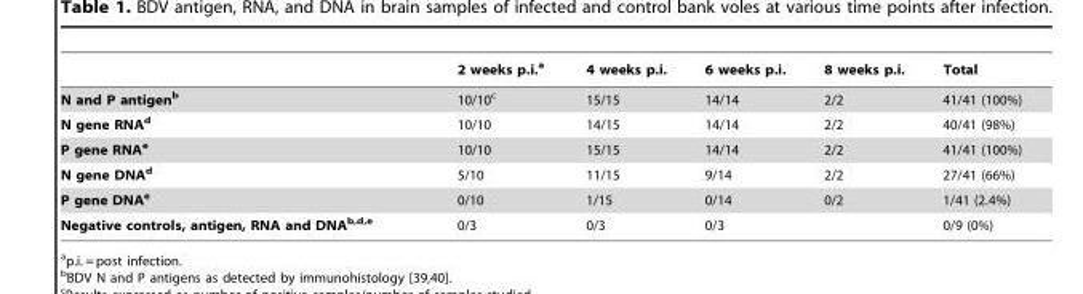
<table><thead><tr><td></td><td>2 weeks p.i.<sup>a</sup></td><td>4 weeks p.i.</td><td>6 weeks p.i.</td><td>8 weeks p.i.</td><td>Total</td></tr></thead><tbody><tr><td>N and P antigenb</td><td>10/10<sup>c</sup></td><td>15/15</td><td>14/14</td><td>2/2</td><td>41/41 (100%)</td></tr><tr><td>N gene RNAd</td><td>10/10</td><td>14/15</td><td>14/14</td><td>2/2</td><td>40/41 (98%)</td></tr><tr><td>P gene RNAe</td><td>10/10</td><td>15/15</td><td>14/14</td><td>2/2</td><td>41/41 (100%)</td></tr><tr><td>N gene DNAd</td><td>5/10</td><td>11/15</td><td>9/14</td><td>2/2</td><td>27/41 (66%)</td></tr><tr><td>P gene DNAe</td><td>0/10</td><td>1/15</td><td>0/14</td><td>0/2</td><td>1/41 (2.4%)</td></tr><tr><td>Negative controls, antigen, RNA and DNAb<sup>,</sup>d<sup>,</sup>e</td><td>0/3</td><td>0/3</td><td>0/3</td><td></td><td>0/9 (0%)</td></tr></tbody></table>